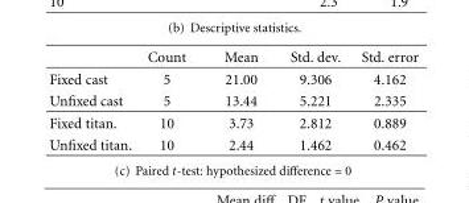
<table><thead><tr><td></td><td>Count</td><td>Mean</td><td>Std. dev.</td><td>Std. error</td></tr></thead><tbody><tr><td>Fixed cast</td><td>5</td><td>21.00</td><td>9.306</td><td>4.162</td></tr><tr><td>Unfixed cast</td><td>5</td><td>13.44</td><td>5.221</td><td>2.335</td></tr><tr><td>Fixed titan.</td><td>10</td><td>3.73</td><td>2.812</td><td>0.889</td></tr><tr><td>Unfixed titan.</td><td>10</td><td>2.44</td><td>1.462</td><td>0.462</td></tr></tbody></table>